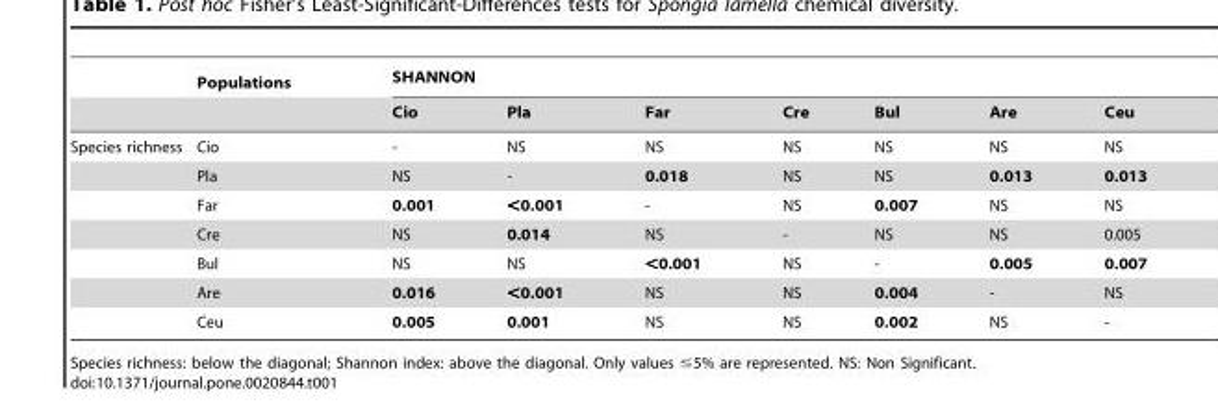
<table><thead><tr><td rowspan="2"></td><td rowspan="2">Populations</td><td colspan="7">SHANNON</td></tr><tr><td>Cio</td><td>Pla</td><td>Far</td><td>Cre</td><td>Bul</td><td>Are</td><td>Ceu</td></tr></thead><tbody><tr><td rowspan="7">Species richness</td><td>Cio</td><td>-</td><td>NS</td><td>NS</td><td>NS</td><td>NS</td><td>NS</td><td>NS</td></tr><tr><td>Pla</td><td>NS</td><td>-</td><td>0.018</td><td>NS</td><td>NS</td><td>0.013</td><td>0.013</td></tr><tr><td>Far</td><td>0.001</td><td>&lt;0.001</td><td>-</td><td>NS</td><td>0.007</td><td>NS</td><td>NS</td></tr><tr><td>Cre</td><td>NS</td><td>0.014</td><td>NS</td><td>-</td><td>NS</td><td>NS</td><td>0.005</td></tr><tr><td>Bul</td><td>NS</td><td>NS</td><td>&lt;0.001</td><td>NS</td><td>-</td><td>0.005</td><td>0.007</td></tr><tr><td>Are</td><td>0.016</td><td>&lt;0.001</td><td>NS</td><td>NS</td><td>0.004</td><td>-</td><td>NS</td></tr><tr><td>Ceu</td><td>0.005</td><td>0.001</td><td>NS</td><td>NS</td><td>0.002</td><td>NS</td><td>-</td></tr></tbody></table>